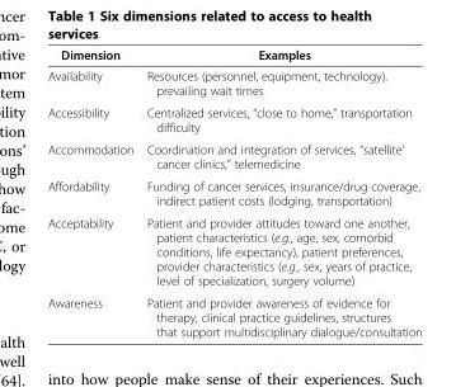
<table><thead><tr><td>Dimension</td><td>Examples</td></tr></thead><tbody><tr><td>Availability</td><td>Resources (personnel, equipment, technology), prevailing wait times</td></tr><tr><td>Accessibility</td><td>Centralized services, “close to home,” transportation difficulty</td></tr><tr><td>Accommodation</td><td>Coordination and integration of services, “satellite’ cancer clinics,” telemedicine</td></tr><tr><td>Affordability</td><td>Funding of cancer services, insurance/drug coverage, indirect patient costs (lodging, transportation)</td></tr><tr><td>Acceptability</td><td>Patient and provider attitudes toward one another, patient characteristics (e.g., age, sex, comorbid conditions, life expectancy), patient preferences, provider characteristics (e.g., sex, years of practice, level of specialization, surgery volume)</td></tr><tr><td>Awareness</td><td>Patient and provider awareness of evidence for therapy, clinical practice guidelines, structures that support multidisciplinary dialogue/consultation</td></tr></tbody></table>